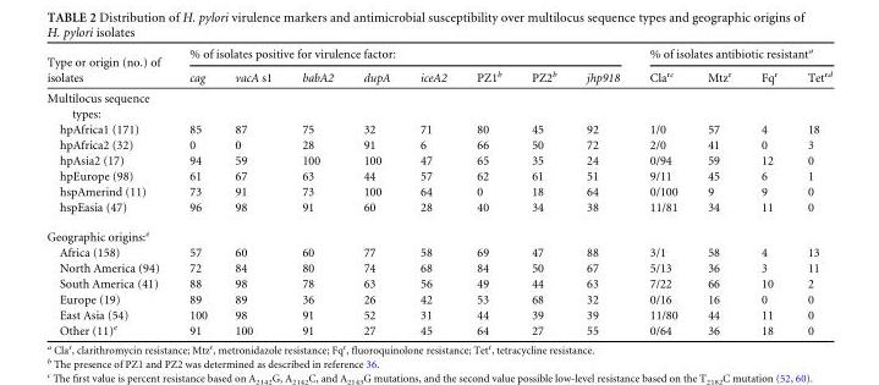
<table><thead><tr><td rowspan="2">Type or origin (no.) of isolates</td><td colspan="8">% of isolates positive for virulence factor:</td><td colspan="4">% of isolates antibiotic resistant<sup>a</sup></td></tr><tr><td>cag</td><td>vacA s1</td><td>babA2</td><td>dupA</td><td>iceA2</td><td>PZ1<sup>b</sup></td><td>PZ2<sup>b</sup></td><td>jhp918</td><td>Cla<sup>rc</sup></td><td>Mtz<sup>r</sup></td><td>Fq<sup>r</sup></td><td>Tet<sup>rd</sup></td></tr></thead><tbody><tr><td colspan="13">Multilocus sequence types:</td></tr><tr><td>hpAfrica1 (171)</td><td>85</td><td>87</td><td>75</td><td>32</td><td>71</td><td>80</td><td>45</td><td>92</td><td>1/0</td><td>57</td><td>4</td><td>18</td></tr><tr><td>hpAfrica2 (32)</td><td>0</td><td>0</td><td>28</td><td>91</td><td>6</td><td>66</td><td>50</td><td>72</td><td>2/0</td><td>41</td><td>0</td><td>3</td></tr><tr><td>hpAsia2 (17)</td><td>94</td><td>59</td><td>100</td><td>100</td><td>47</td><td>65</td><td>35</td><td>24</td><td>0/94</td><td>59</td><td>12</td><td>0</td></tr><tr><td>hpEurope (98)</td><td>61</td><td>67</td><td>63</td><td>44</td><td>57</td><td>62</td><td>61</td><td>51</td><td>9/11</td><td>45</td><td>6</td><td>1</td></tr><tr><td>hspAmerind (11)</td><td>73</td><td>91</td><td>73</td><td>100</td><td>64</td><td>0</td><td>18</td><td>64</td><td>0/100</td><td>9</td><td>9</td><td>0</td></tr><tr><td>hspEasia (47)</td><td>96</td><td>98</td><td>91</td><td>60</td><td>28</td><td>40</td><td>34</td><td>38</td><td>11/81</td><td>34</td><td>11</td><td>0</td></tr><tr><td colspan="13">Geographic origins:<sup>e</sup></td></tr><tr><td>Africa (158)</td><td>57</td><td>60</td><td>60</td><td>77</td><td>58</td><td>69</td><td>47</td><td>88</td><td>3/1</td><td>58</td><td>4</td><td>13</td></tr><tr><td>North America (94)</td><td>72</td><td>84</td><td>80</td><td>74</td><td>68</td><td>84</td><td>50</td><td>67</td><td>5/13</td><td>36</td><td>3</td><td>11</td></tr><tr><td>South America (41)</td><td>88</td><td>98</td><td>78</td><td>63</td><td>56</td><td>49</td><td>44</td><td>63</td><td>7/22</td><td>66</td><td>10</td><td>2</td></tr><tr><td>Europe (19)</td><td>89</td><td>89</td><td>36</td><td>26</td><td>42</td><td>53</td><td>68</td><td>32</td><td>0/16</td><td>16</td><td>0</td><td>0</td></tr><tr><td>East Asia (54)</td><td>100</td><td>98</td><td>91</td><td>52</td><td>31</td><td>44</td><td>39</td><td>39</td><td>11/80</td><td>44</td><td>11</td><td>0</td></tr><tr><td>Other (11)<sup>e</sup></td><td>91</td><td>100</td><td>91</td><td>27</td><td>45</td><td>64</td><td>27</td><td>55</td><td>0/64</td><td>36</td><td>18</td><td>0</td></tr></tbody></table>